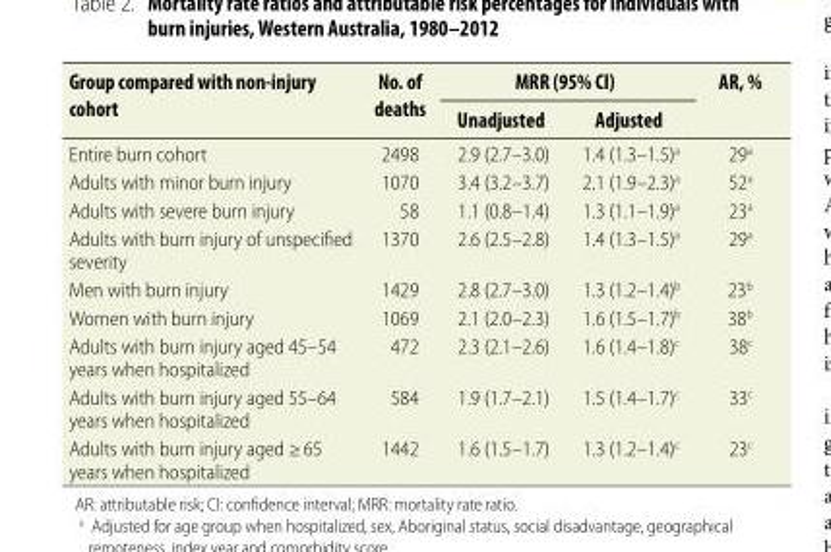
<table><thead><tr><td rowspan="2">Group compared with non-injury cohort</td><td rowspan="2">No. of deaths</td><td colspan="2">MRR (95% CI)</td><td rowspan="2">AR, %</td></tr><tr><td>Unadjusted</td><td>Adjusted</td></tr></thead><tbody><tr><td>Entire burn cohort</td><td>2498</td><td>2.9 (2.7–3.0)</td><td>1.4 (1.3–1.5)<sup>a</sup></td><td>29<sup>a</sup></td></tr><tr><td>Adults with minor burn injury</td><td>1070</td><td>3.4 (3.2–3.7)</td><td>2.1 (1.9–2.3)<sup>a</sup></td><td>52<sup>a</sup></td></tr><tr><td>Adults with severe burn injury</td><td>58</td><td>1.1 (0.8–1.4)</td><td>1.3 (1.1–1.9)<sup>a</sup></td><td>23<sup>a</sup></td></tr><tr><td>Adults with burn injury of unspecified severity</td><td>1370</td><td>2.6 (2.5–2.8)</td><td>1.4 (1.3–1.5)<sup>a</sup></td><td>29<sup>a</sup></td></tr><tr><td>Men with burn injury</td><td>1429</td><td>2.8 (2.7–3.0)</td><td>1.3 (1.2–1.4)<sup>b</sup></td><td>23<sup>b</sup></td></tr><tr><td>Women with burn injury</td><td>1069</td><td>2.1 (2.0–2.3)</td><td>1.6 (1.5–1.7)<sup>b</sup></td><td>38<sup>b</sup></td></tr><tr><td>Adults with burn injury aged 45–54 years when hospitalized</td><td>472</td><td>2.3 (2.1–2.6)</td><td>1.6 (1.4–1.8)<sup>c</sup></td><td>38<sup>c</sup></td></tr><tr><td>Adults with burn injury aged 55–64 years when hospitalized</td><td>584</td><td>1.9 (1.7–2.1)</td><td>1.5 (1.4–1.7)<sup>c</sup></td><td>33<sup>c</sup></td></tr><tr><td>Adults with burn injury aged ≥ 65 years when hospitalized</td><td>1442</td><td>1.6 (1.5–1.7)</td><td>1.3 (1.2–1.4)<sup>c</sup></td><td>23<sup>c</sup></td></tr></tbody></table>